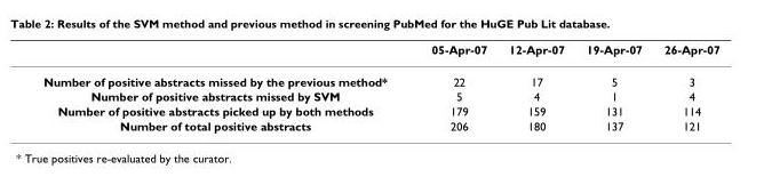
<table><thead><tr><td></td><td>05-Apr-07</td><td>12-Apr-07</td><td>19-Apr-07</td><td>26-Apr-07</td></tr></thead><tbody><tr><td>Number of positive abstracts missed by the previous method*</td><td>22</td><td>17</td><td>5</td><td>3</td></tr><tr><td>Number of positive abstracts missed by SVM</td><td>5</td><td>4</td><td>1</td><td>4</td></tr><tr><td>Number of positive abstracts picked up by both methods</td><td>179</td><td>159</td><td>131</td><td>114</td></tr><tr><td>Number of total positive abstracts</td><td>206</td><td>180</td><td>137</td><td>121</td></tr></tbody></table>